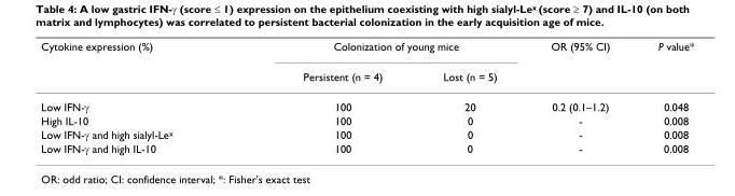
<table><thead><tr><td rowspan="2">Cytokine expression (%)</td><td colspan="2">Colonization of young mice</td><td rowspan="2">OR (95% CI)</td><td rowspan="2">P value*</td></tr><tr><td>Persistent (n = 4)</td><td>Lost (n = 5)</td></tr></thead><tbody><tr><td>Low IFN-γ</td><td>100</td><td>20</td><td>0.2 (0.1–1.2)</td><td>0.048</td></tr><tr><td>High IL-10</td><td>100</td><td>0</td><td>-</td><td>0.008</td></tr><tr><td>Low IFN-γ and high sialyl-Le<sup>x</sup></td><td>100</td><td>0</td><td>-</td><td>0.008</td></tr><tr><td>Low IFN-γ and high IL-10</td><td>100</td><td>0</td><td>-</td><td>0.008</td></tr></tbody></table>